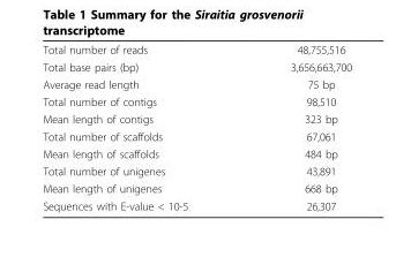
<table><tbody><tr><td>Total number of reads</td><td>48,755,516</td></tr><tr><td>Total base pairs (bp)</td><td>3,656,663,700</td></tr><tr><td>Average read length</td><td>75 bp</td></tr><tr><td>Total number of contigs</td><td>98,510</td></tr><tr><td>Mean length of contigs</td><td>323 bp</td></tr><tr><td>Total number of scaffolds</td><td>67,061</td></tr><tr><td>Mean length of scaffolds</td><td>484 bp</td></tr><tr><td>Total number of unigenes</td><td>43,891</td></tr><tr><td>Mean length of unigenes</td><td>668 bp</td></tr><tr><td>Sequences with E-value &lt; 10-5</td><td>26,307</td></tr></tbody></table>